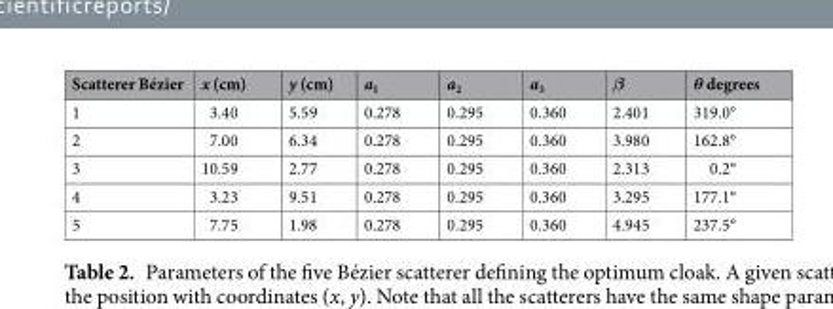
<table><thead><tr><td>Scatterer Bézier</td><td>x (cm)</td><td>y (cm)</td><td>a<sub>1</sub></td><td>a<sub>2</sub></td><td>a<sub>3</sub></td><td>β</td><td>θ degrees</td></tr></thead><tbody><tr><td>1</td><td>3.40</td><td>5.59</td><td>0.278</td><td>0.295</td><td>0.360</td><td>2.401</td><td>319.0°</td></tr><tr><td>2</td><td>7.00</td><td>6.34</td><td>0.278</td><td>0.295</td><td>0.360</td><td>3.980</td><td>162.8°</td></tr><tr><td>3</td><td>10.59</td><td>2.77</td><td>0.278</td><td>0.295</td><td>0.360</td><td>2.313</td><td>0.2°</td></tr><tr><td>4</td><td>3.23</td><td>9.51</td><td>0.278</td><td>0.295</td><td>0.360</td><td>3.295</td><td>177.1°</td></tr><tr><td>5</td><td>7.75</td><td>1.98</td><td>0.278</td><td>0.295</td><td>0.360</td><td>4.945</td><td>237.5°</td></tr></tbody></table>